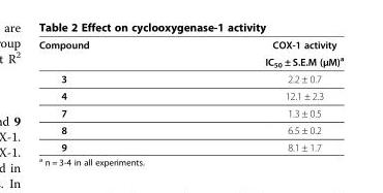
<table><thead><tr><td rowspan="2">Compound</td><td rowspan="2">COX-1 activity IC<sub>50</sub> ± S.E.M (μM)<sup>a</sup></td></tr><tr></tr></thead><tbody><tr><td>3</td><td>2.2 ± 0.7</td></tr><tr><td>4</td><td>12.1 ± 2.3</td></tr><tr><td>7</td><td>1.3 ± 0.5</td></tr><tr><td>8</td><td>6.5 ± 0.2</td></tr><tr><td>9</td><td>8.1 ± 1.7</td></tr></tbody></table>